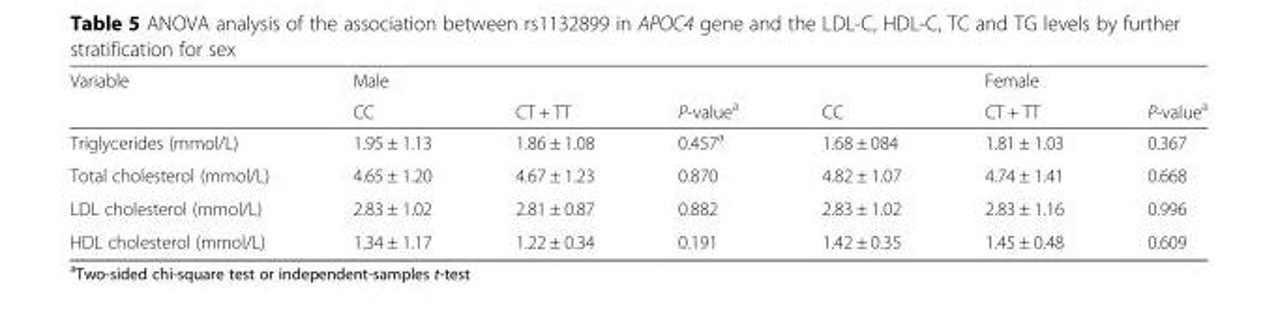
<table><thead><tr><td rowspan="2">Variable</td><td colspan="3">Male</td><td rowspan="2">CC</td><td colspan="2">Female</td></tr><tr><td>CC</td><td>CT + TT</td><td>P-value<sup>a</sup></td><td>CT + TT</td><td>P-value<sup>a</sup></td></tr></thead><tbody><tr><td>Triglycerides (mmol/L)</td><td>1.95 ± 1.13</td><td>1.86 ± 1.08</td><td>0.457<sup>a</sup></td><td>1.68 ± 084</td><td>1.81 ± 1.03</td><td>0.367</td></tr><tr><td>Total cholesterol (mmol/L)</td><td>4.65 ± 1.20</td><td>4.67 ± 1.23</td><td>0.870</td><td>4.82 ± 1.07</td><td>4.74 ± 1.41</td><td>0.668</td></tr><tr><td>LDL cholesterol (mmol/L)</td><td>2.83 ± 1.02</td><td>2.81 ± 0.87</td><td>0.882</td><td>2.83 ± 1.02</td><td>2.83 ± 1.16</td><td>0.996</td></tr><tr><td>HDL cholesterol (mmol/L)</td><td>1.34 ± 1.17</td><td>1.22 ± 0.34</td><td>0.191</td><td>1.42 ± 0.35</td><td>1.45 ± 0.48</td><td>0.609</td></tr></tbody></table>